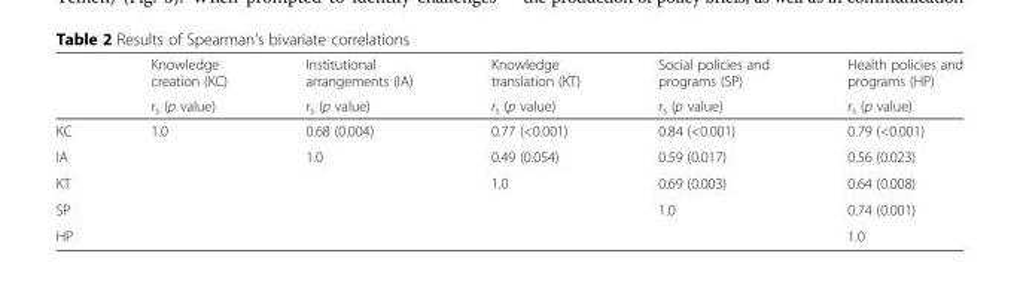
<table><thead><tr><td rowspan="2"></td><td rowspan="2">Knowledge creation (KC) r<sub>s</sub> (p value)</td><td rowspan="2">Institutional arrangements (IA) r<sub>s</sub> (p value)</td><td rowspan="2">Knowledge translation (KT) r<sub>s</sub> (p value)</td><td rowspan="2">Social policies and programs (SP) r<sub>s</sub> (p value)</td><td rowspan="2">Health policies and programs (HP) r<sub>s</sub> (p value)</td></tr><tr></tr></thead><tbody><tr><td>KC</td><td>1.0</td><td>0.68 (0.004)</td><td>0.77 (&lt;0.001)</td><td>0.84 (&lt;0.001)</td><td>0.79 (&lt;0.001)</td></tr><tr><td>IA</td><td></td><td>1.0</td><td>0.49 (0.054)</td><td>0.59 (0.017)</td><td>0.56 (0.023)</td></tr><tr><td>KT</td><td></td><td></td><td>1.0</td><td>0.69 (0.003)</td><td>0.64 (0.008)</td></tr><tr><td>SP</td><td></td><td></td><td></td><td>1.0</td><td>0.74 (0.001)</td></tr><tr><td>HP</td><td></td><td></td><td></td><td></td><td>1.0</td></tr></tbody></table>